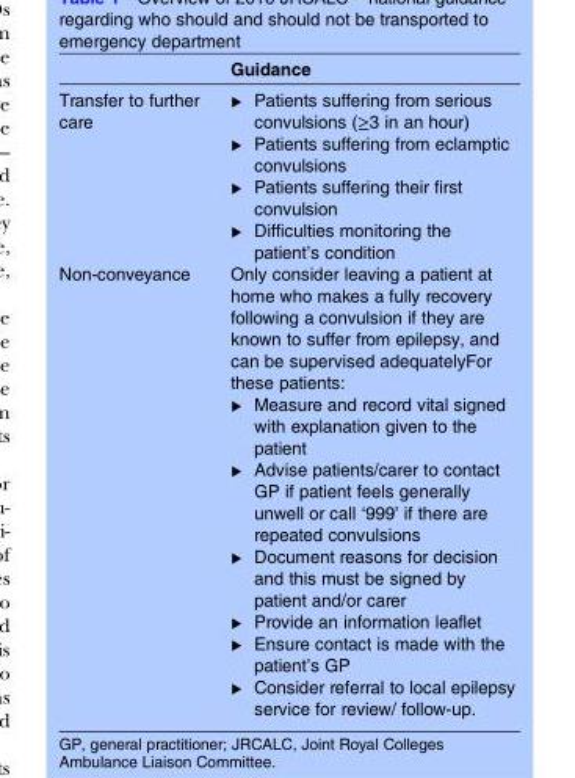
<table><thead><tr><td></td><td>Guidance</td></tr></thead><tbody><tr><td>Transfer to further care</td><td>▸ Patients suffering from serious convulsions (≥3 in an hour) ▸ Patients suffering from eclamptic convulsions ▸ Patients suffering their first convulsion ▸ Difficulties monitoring the patient’s condition</td></tr><tr><td>Non-conveyance</td><td>Only consider leaving a patient at home who makes a fully recovery following a convulsion if they are known to suffer from epilepsy, and can be supervised adequatelyFor these patients: ▸ Measure and record vital signed with explanation given to the patient ▸ Advise patients/carer to contact GP if patient feels generally unwell or call ‘999’ if there are repeated convulsions ▸ Document reasons for decision and this must be signed by patient and/or carer ▸ Provide an information leaflet ▸ Ensure contact is made with the patient’s GP ▸ Consider referral to local epilepsy service for review/ follow-up.</td></tr></tbody></table>